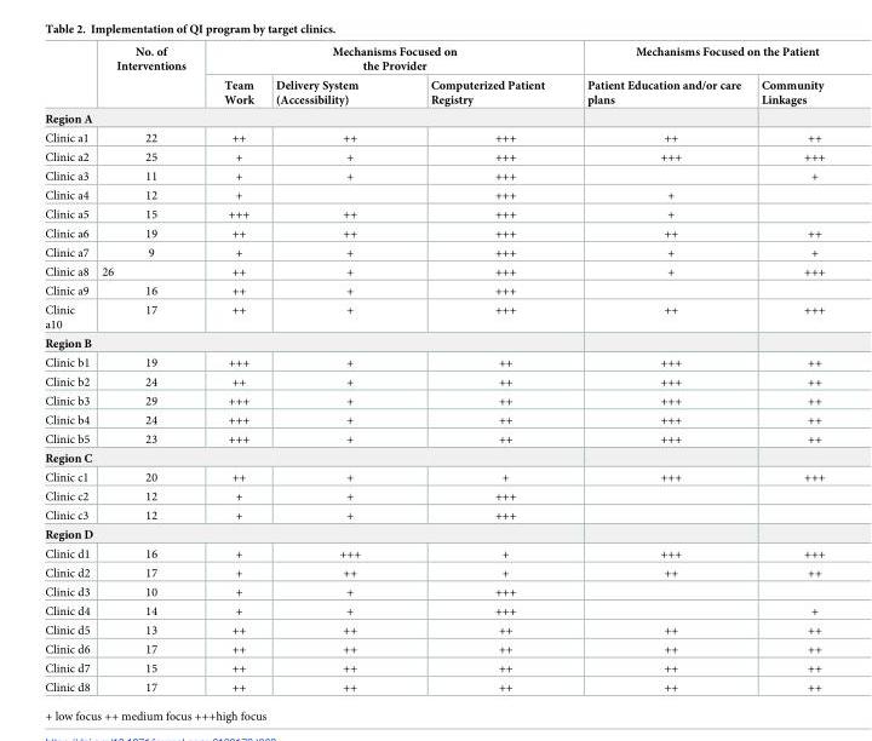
<table><thead><tr><td rowspan="2"></td><td rowspan="2">No. of Interventions</td><td colspan="3">Mechanisms Focused on the Provider</td><td colspan="2">Mechanisms Focused on the Patient</td></tr><tr><td>Team Work</td><td>Delivery System (Accessibility)</td><td>Computerized Patient Registry</td><td>Patient Education and/or care plans</td><td>Community Linkages</td></tr></thead><tbody><tr><td colspan="7">Region A</td></tr><tr><td>Clinic a1</td><td>22</td><td>++</td><td>++</td><td>+++</td><td>++</td><td>++</td></tr><tr><td>Clinic a2</td><td>25</td><td>+</td><td>+</td><td>+++</td><td>+++</td><td>+++</td></tr><tr><td>Clinic a3</td><td>11</td><td>+</td><td>+</td><td>+++</td><td></td><td>+</td></tr><tr><td>Clinic a4</td><td>12</td><td>+</td><td></td><td>+++</td><td>+</td><td></td></tr><tr><td>Clinic a5</td><td>15</td><td>+++</td><td>++</td><td>+++</td><td>+</td><td></td></tr><tr><td>Clinic a6</td><td>19</td><td>++</td><td>++</td><td>+++</td><td>++</td><td>++</td></tr><tr><td>Clinic a7</td><td>9</td><td>+</td><td>+</td><td>+++</td><td>+</td><td>+</td></tr><tr><td>Clinic a8</td><td>26</td><td>++</td><td>+</td><td>+++</td><td>+</td><td>+++</td></tr><tr><td>Clinic a9</td><td>16</td><td>++</td><td>+</td><td>+++</td><td></td><td></td></tr><tr><td>Clinic a10</td><td>17</td><td>++</td><td>+</td><td>+++</td><td>++</td><td>+++</td></tr><tr><td colspan="7">Region B</td></tr><tr><td>Clinic b1</td><td>19</td><td>+++</td><td>+</td><td>++</td><td>+++</td><td>++</td></tr><tr><td>Clinic b2</td><td>24</td><td>++</td><td>+</td><td>++</td><td>+++</td><td>++</td></tr><tr><td>Clinic b3</td><td>29</td><td>+++</td><td>+</td><td>++</td><td>+++</td><td>++</td></tr><tr><td>Clinic b4</td><td>24</td><td>+++</td><td>+</td><td>++</td><td>+++</td><td>++</td></tr><tr><td>Clinic b5</td><td>23</td><td>+++</td><td>+</td><td>++</td><td>+++</td><td>++</td></tr><tr><td colspan="7">Region C</td></tr><tr><td>Clinic c1</td><td>20</td><td>++</td><td>+</td><td>+</td><td>+++</td><td>+++</td></tr><tr><td>Clinic c2</td><td>12</td><td>+</td><td>+</td><td>+++</td><td></td><td></td></tr><tr><td>Clinic c3</td><td>12</td><td>+</td><td>+</td><td>+++</td><td></td><td></td></tr><tr><td colspan="7">Region D</td></tr><tr><td>Clinic d1</td><td>16</td><td>+</td><td>+++</td><td>+</td><td>+++</td><td>+++</td></tr><tr><td>Clinic d2</td><td>17</td><td>+</td><td>++</td><td>+</td><td>++</td><td>++</td></tr><tr><td>Clinic d3</td><td>10</td><td>+</td><td>+</td><td>+++</td><td></td><td></td></tr><tr><td>Clinic d4</td><td>14</td><td>+</td><td>+</td><td>+++</td><td></td><td>+</td></tr><tr><td>Clinic d5</td><td>13</td><td>++</td><td>++</td><td>++</td><td>++</td><td>++</td></tr><tr><td>Clinic d6</td><td>17</td><td>++</td><td>++</td><td>++</td><td>++</td><td>++</td></tr><tr><td>Clinic d7</td><td>15</td><td>++</td><td>++</td><td>++</td><td>++</td><td>++</td></tr><tr><td>Clinic d8</td><td>17</td><td>++</td><td>++</td><td>++</td><td>++</td><td>++</td></tr></tbody></table>